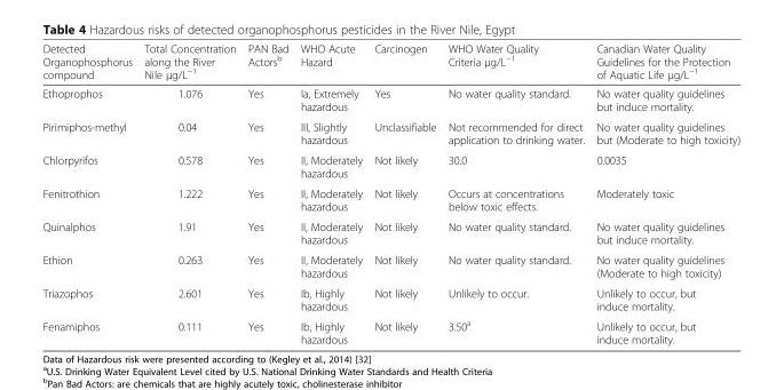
<table><thead><tr><td>Detected Organophosphorus compound</td><td>Total Concentration along the River Nile μg/L<sup>−1</sup></td><td>PAN Bad Actors<sup>b</sup></td><td>WHO Acute Hazard</td><td>Carcinogen</td><td>WHO Water Quality Criteria μg/L<sup>−1</sup></td><td>Canadian Water Quality Guidelines for the Protection of Aquatic Life μg/L<sup>−1</sup></td></tr></thead><tbody><tr><td>Ethoprophos</td><td>1.076</td><td>Yes</td><td>Ia, Extremely hazardous</td><td>Yes</td><td>No water quality standard.</td><td>No water quality guidelines but induce mortality.</td></tr><tr><td>Pirimiphos-methyl</td><td>0.04</td><td>Yes</td><td>III, Slightly hazardous</td><td>Unclassifiable</td><td>Not recommended for direct application to drinking water.</td><td>No water quality guidelines but (Moderate to high toxicity)</td></tr><tr><td>Chlorpyrifos</td><td>0.578</td><td>Yes</td><td>II, Moderately hazardous</td><td>Not likely</td><td>30.0</td><td>0.0035</td></tr><tr><td>Fenitrothion</td><td>1.222</td><td>Yes</td><td>II, Moderately hazardous</td><td>Not likely</td><td>Occurs at concentrations below toxic effects.</td><td>Moderately toxic</td></tr><tr><td>Quinalphos</td><td>1.91</td><td>Yes</td><td>II, Moderately hazardous</td><td>Not likely</td><td>No water quality standard.</td><td>No water quality guidelines but induce mortality.</td></tr><tr><td>Ethion</td><td>0.263</td><td>Yes</td><td>II, Moderately hazardous</td><td>Not likely</td><td>No water quality standard.</td><td>No water quality guidelines (Moderate to high toxicity)</td></tr><tr><td>Triazophos</td><td>2.601</td><td>Yes</td><td>Ib, Highly hazardous</td><td>Not likely</td><td>Unlikely to occur.</td><td>Unlikely to occur, but induce mortality.</td></tr><tr><td>Fenamiphos</td><td>0.111</td><td>Yes</td><td>Ib, Highly hazardous</td><td>Not likely</td><td>3.50<sup>a</sup></td><td>Unlikely to occur, but induce mortality.</td></tr></tbody></table>